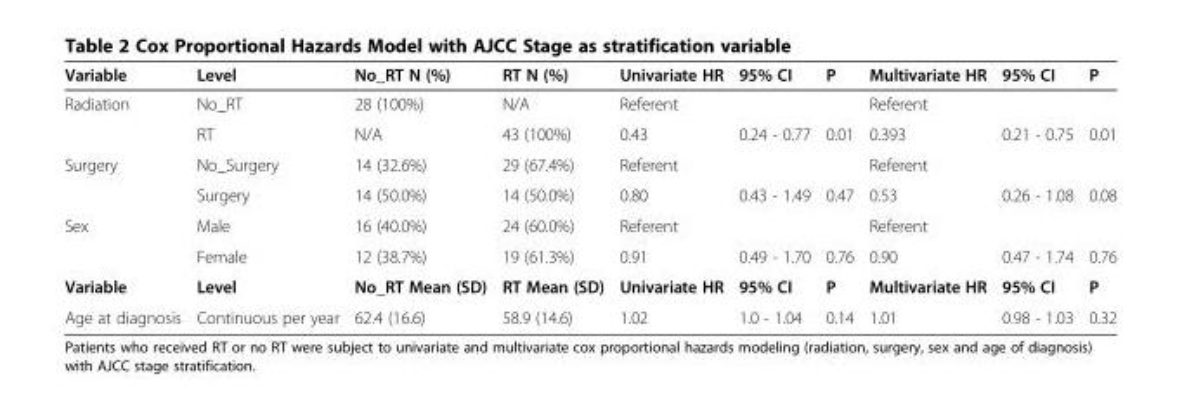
<table><thead><tr><td>Variable</td><td>Level</td><td>No_RT N (%)</td><td>RT N (%)</td><td>Univariate HR</td><td>95% CI</td><td>P</td><td>Multivariate HR</td><td>95% CI</td><td>P</td></tr></thead><tbody><tr><td rowspan="2">Radiation</td><td>No_RT</td><td>28 (100%)</td><td>N/A</td><td>Referent</td><td></td><td></td><td>Referent</td><td></td><td></td></tr><tr><td>RT</td><td>N/A</td><td>43 (100%)</td><td>0.43</td><td>0.24 - 0.77</td><td>0.01</td><td>0.393</td><td>0.21 - 0.75</td><td>0.01</td></tr><tr><td rowspan="2">Surgery</td><td>No_Surgery</td><td>14 (32.6%)</td><td>29 (67.4%)</td><td>Referent</td><td></td><td></td><td>Referent</td><td></td><td></td></tr><tr><td>Surgery</td><td>14 (50.0%)</td><td>14 (50.0%)</td><td>0.80</td><td>0.43 - 1.49</td><td>0.47</td><td>0.53</td><td>0.26 - 1.08</td><td>0.08</td></tr><tr><td rowspan="2">Sex</td><td>Male</td><td>16 (40.0%)</td><td>24 (60.0%)</td><td>Referent</td><td></td><td></td><td>Referent</td><td></td><td></td></tr><tr><td>Female</td><td>12 (38.7%)</td><td>19 (61.3%)</td><td>0.91</td><td>0.49 - 1.70</td><td>0.76</td><td>0.90</td><td>0.47 - 1.74</td><td>0.76</td></tr><tr><td>Variable</td><td>Level</td><td>No_RT Mean (SD)</td><td>RT Mean (SD)</td><td>Univariate HR</td><td>95% CI</td><td>P</td><td>Multivariate HR</td><td>95% CI</td><td>P</td></tr><tr><td>Age at diagnosis</td><td>Continuous per year</td><td>62.4 (16.6)</td><td>58.9 (14.6)</td><td>1.02</td><td>1.0 - 1.04</td><td>0.14</td><td>1.01</td><td>0.98 - 1.03</td><td>0.32</td></tr></tbody></table>